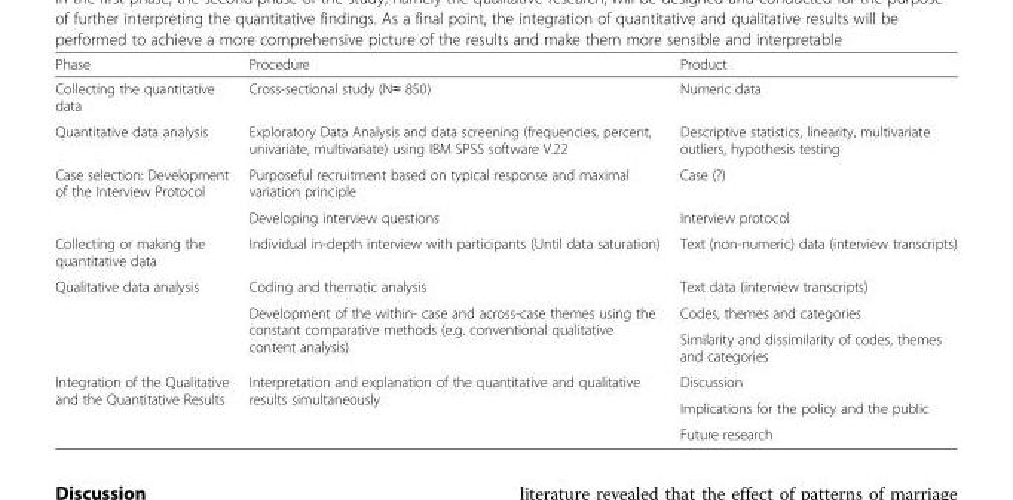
<table><thead><tr><td>Phase</td><td>Procedure</td><td>Product</td></tr></thead><tbody><tr><td>Collecting the quantitative data</td><td>Cross-sectional study (N≈ 850)</td><td>Numeric data</td></tr><tr><td>Quantitative data analysis</td><td>Exploratory Data Analysis and data screening (frequencies, percent, univariate, multivariate) using IBM SPSS software V.22</td><td>Descriptive statistics, linearity, multivariate outliers, hypothesis testing</td></tr><tr><td rowspan="2">Case selection: Development of the Interview Protocol</td><td>Purposeful recruitment based on typical response and maximal variation principle</td><td>Case (?)</td></tr><tr><td>Developing interview questions</td><td>Interview protocol</td></tr><tr><td>Collecting or making the quantitative data</td><td>Individual in-depth interview with participants (Until data saturation)</td><td>Text (non-numeric) data (interview transcripts)</td></tr><tr><td rowspan="3">Qualitative data analysis</td><td>Coding and thematic analysis</td><td>Text data (interview transcripts)</td></tr><tr><td rowspan="2">Development of the within- case and across-case themes using the constant comparative methods (e.g. conventional qualitative content analysis)</td><td>Codes, themes and categories</td></tr><tr><td>Similarity and dissimilarity of codes, themes and categories</td></tr><tr><td rowspan="3">Integration of the Qualitative and the Quantitative Results</td><td rowspan="3">Interpretation and explanation of the quantitative and qualitative results simultaneously</td><td>Discussion</td></tr><tr><td>Implications for the policy and the public</td></tr><tr><td>Future research</td></tr></tbody></table>